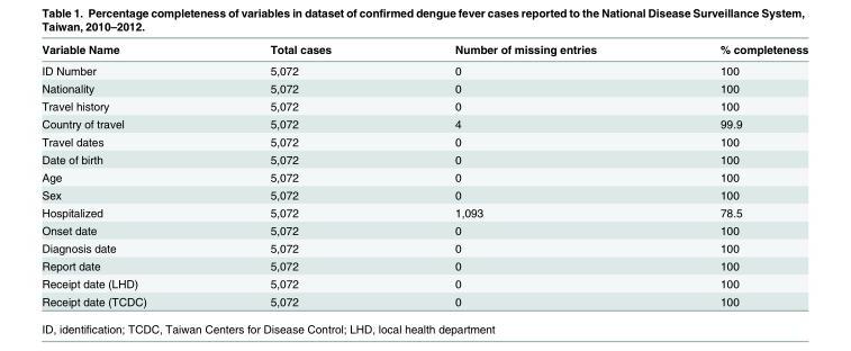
<table><thead><tr><td>Variable Name</td><td>Total cases</td><td>Number of missing entries</td><td>% completeness</td></tr></thead><tbody><tr><td>ID Number</td><td>5,072</td><td>0</td><td>100</td></tr><tr><td>Nationality</td><td>5,072</td><td>0</td><td>100</td></tr><tr><td>Travel history</td><td>5,072</td><td>0</td><td>100</td></tr><tr><td>Country of travel</td><td>5,072</td><td>4</td><td>99.9</td></tr><tr><td>Travel dates</td><td>5,072</td><td>0</td><td>100</td></tr><tr><td>Date of birth</td><td>5,072</td><td>0</td><td>100</td></tr><tr><td>Age</td><td>5,072</td><td>0</td><td>100</td></tr><tr><td>Sex</td><td>5,072</td><td>0</td><td>100</td></tr><tr><td>Hospitalized</td><td>5,072</td><td>1,093</td><td>78.5</td></tr><tr><td>Onset date</td><td>5,072</td><td>0</td><td>100</td></tr><tr><td>Diagnosis date</td><td>5,072</td><td>0</td><td>100</td></tr><tr><td>Report date</td><td>5,072</td><td>0</td><td>100</td></tr><tr><td>Receipt date (LHD)</td><td>5,072</td><td>0</td><td>100</td></tr><tr><td>Receipt date (TCDC)</td><td>5,072</td><td>0</td><td>100</td></tr></tbody></table>